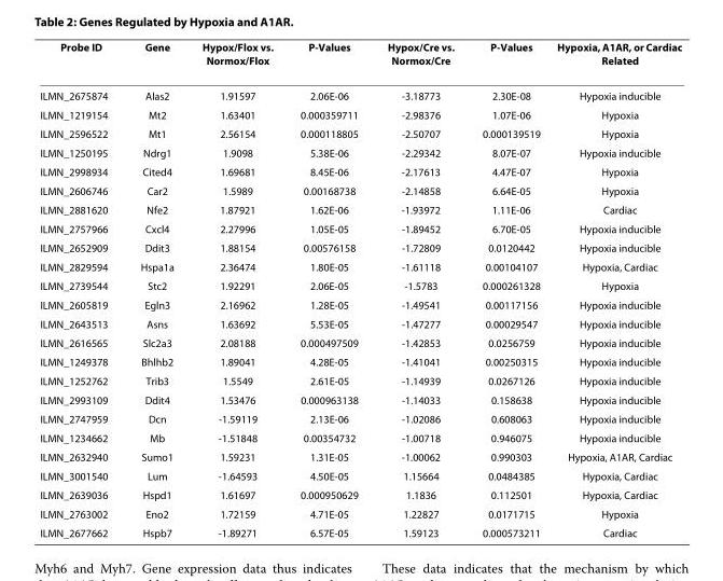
<table><thead><tr><td>Probe ID</td><td>Gene</td><td>Hypox/Flox vs. Normox/Flox</td><td>P-Values</td><td>Hypox/Cre vs. Normox/Cre</td><td>P-Values</td><td>Hypoxia, A1AR, or Cardiac Related</td></tr></thead><tbody><tr><td>ILMN_2675874</td><td>Alas2</td><td>1.91597</td><td>2.06E-06</td><td>-3.18773</td><td>2.30E-08</td><td>Hypoxia inducible</td></tr><tr><td>ILMN_1219154</td><td>Mt2</td><td>1.63401</td><td>0.000359711</td><td>-2.98376</td><td>1.07E-06</td><td>Hypoxia</td></tr><tr><td>ILMN_2596522</td><td>Mt1</td><td>2.56154</td><td>0.000118805</td><td>-2.50707</td><td>0.000139519</td><td>Hypoxia</td></tr><tr><td>ILMN_1250195</td><td>Ndrg1</td><td>1.9098</td><td>5.38E-06</td><td>-2.29342</td><td>8.07E-07</td><td>Hypoxia inducible</td></tr><tr><td>ILMN_2998934</td><td>Cited4</td><td>1.69681</td><td>8.45E-06</td><td>-2.17613</td><td>4.47E-07</td><td>Hypoxia</td></tr><tr><td>ILMN_2606746</td><td>Car2</td><td>1.5989</td><td>0.00168738</td><td>-2.14858</td><td>6.64E-05</td><td>Hypoxia</td></tr><tr><td>ILMN_2881620</td><td>Nfe2</td><td>1.87921</td><td>1.62E-06</td><td>-1.93972</td><td>1.11E-06</td><td>Cardiac</td></tr><tr><td>ILMN_2757966</td><td>Cxcl4</td><td>2.27996</td><td>1.05E-05</td><td>-1.89452</td><td>6.70E-05</td><td>Hypoxia inducible</td></tr><tr><td>ILMN_2652909</td><td>Ddit3</td><td>1.88154</td><td>0.00576158</td><td>-1.72809</td><td>0.0120442</td><td>Hypoxia inducible</td></tr><tr><td>ILMN_2829594</td><td>Hspa1a</td><td>2.36474</td><td>1.80E-05</td><td>-1.61118</td><td>0.00104107</td><td>Hypoxia, Cardiac</td></tr><tr><td>ILMN_2739544</td><td>Stc2</td><td>1.92291</td><td>2.06E-05</td><td>-1.5783</td><td>0.000261328</td><td>Hypoxia</td></tr><tr><td>ILMN_2605819</td><td>Egln3</td><td>2.16962</td><td>1.28E-05</td><td>-1.49541</td><td>0.00117156</td><td>Hypoxia inducible</td></tr><tr><td>ILMN_2643513</td><td>Asns</td><td>1.63692</td><td>5.53E-05</td><td>-1.47277</td><td>0.00029547</td><td>Hypoxia inducible</td></tr><tr><td>ILMN_2616565</td><td>Slc2a3</td><td>2.08188</td><td>0.000497509</td><td>-1.42853</td><td>0.0256759</td><td>Hypoxia inducible</td></tr><tr><td>ILMN_1249378</td><td>Bhlhb2</td><td>1.89041</td><td>4.28E-05</td><td>-1.41041</td><td>0.00250315</td><td>Hypoxia inducible</td></tr><tr><td>ILMN_1252762</td><td>Trib3</td><td>1.5549</td><td>2.61E-05</td><td>-1.14939</td><td>0.0267126</td><td>Hypoxia inducible</td></tr><tr><td>ILMN_2993109</td><td>Ddit4</td><td>1.53476</td><td>0.000963138</td><td>-1.14033</td><td>0.158638</td><td>Hypoxia inducible</td></tr><tr><td>ILMN_2747959</td><td>Dcn</td><td>-1.59119</td><td>2.13E-06</td><td>-1.02086</td><td>0.608063</td><td>Hypoxia inducible</td></tr><tr><td>ILMN_1234662</td><td>Mb</td><td>-1.51848</td><td>0.00354732</td><td>-1.00718</td><td>0.946075</td><td>Hypoxia inducible</td></tr><tr><td>ILMN_2632940</td><td>Sumo1</td><td>1.59231</td><td>1.31E-05</td><td>-1.00062</td><td>0.990303</td><td>Hypoxia, A1AR, Cardiac</td></tr><tr><td>ILMN_3001540</td><td>Lum</td><td>-1.64593</td><td>4.50E-05</td><td>1.15664</td><td>0.0484385</td><td>Hypoxia, Cardiac</td></tr><tr><td>ILMN_2639036</td><td>Hspd1</td><td>1.61697</td><td>0.000950629</td><td>1.1836</td><td>0.112501</td><td>Hypoxia, Cardiac</td></tr><tr><td>ILMN_2763002</td><td>Eno2</td><td>1.72159</td><td>4.71E-05</td><td>1.22827</td><td>0.0171715</td><td>Hypoxia</td></tr><tr><td>ILMN_2677662</td><td>Hspb7</td><td>-1.89271</td><td>6.57E-05</td><td>1.59123</td><td>0.000573211</td><td>Cardiac</td></tr></tbody></table>